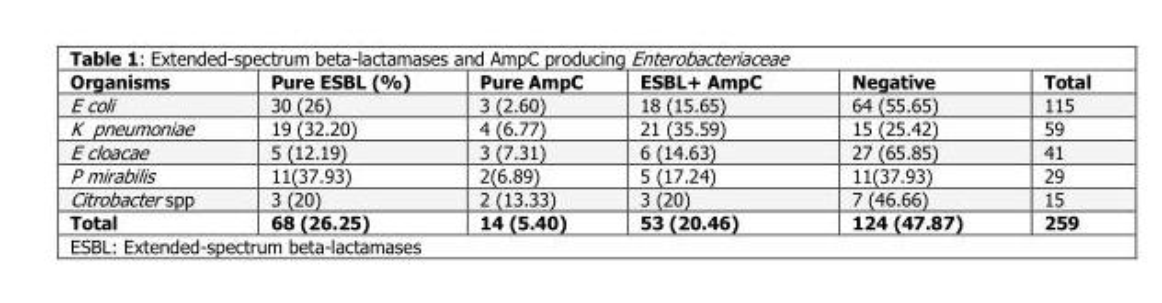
<table><thead><tr><td>Organisms</td><td>Pure ESBL (%)</td><td>Pure AmpC</td><td>ESBL+ AmpC</td><td>Negative</td><td>Total</td></tr></thead><tbody><tr><td>E coli</td><td>30 (26)</td><td>3 (2.60)</td><td>18 (15.65)</td><td>64 (55.65)</td><td>115</td></tr><tr><td>K pneumoniae</td><td>19 (32.20)</td><td>4 (6.77)</td><td>21 (35.59)</td><td>15 (25.42)</td><td>59</td></tr><tr><td>E cloacae</td><td>5 (12.19)</td><td>3 (7.31)</td><td>6 (14.63)</td><td>27 (65.85)</td><td>41</td></tr><tr><td>P mirabilis</td><td>11(37.93)</td><td>2(6.89)</td><td>5 (17.24)</td><td>11(37.93)</td><td>29</td></tr><tr><td>Citrobacter spp</td><td>3 (20)</td><td>2 (13.33)</td><td>3 (20)</td><td>7 (46.66)</td><td>15</td></tr><tr><td>Total</td><td>68 (26.25)</td><td>14 (5.40)</td><td>53 (20.46)</td><td>124 (47.87)</td><td>259</td></tr></tbody></table>